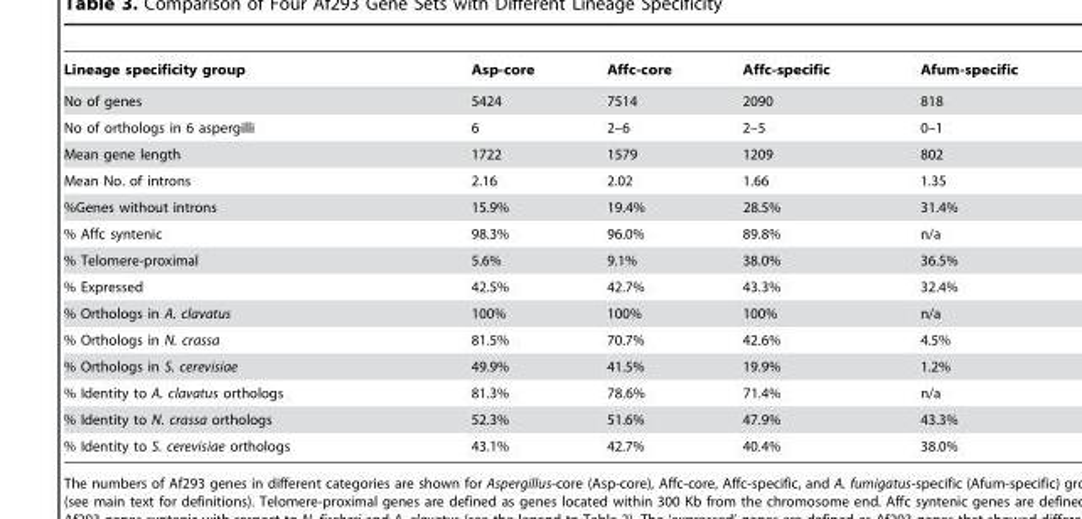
<table><thead><tr><td>Lineage specificity group</td><td>Asp-core</td><td>Affc-core</td><td>Affc-specific</td><td>Afum-specific</td></tr></thead><tbody><tr><td>No of genes</td><td>5424</td><td>7514</td><td>2090</td><td>818</td></tr><tr><td>No of orthologs in 6 aspergilli</td><td>6</td><td>2–6</td><td>2–5</td><td>0–1</td></tr><tr><td>Mean gene length</td><td>1722</td><td>1579</td><td>1209</td><td>802</td></tr><tr><td>Mean No. of introns</td><td>2.16</td><td>2.02</td><td>1.66</td><td>1.35</td></tr><tr><td>%Genes without introns</td><td>15.9%</td><td>19.4%</td><td>28.5%</td><td>31.4%</td></tr><tr><td>% Affc syntenic</td><td>98.3%</td><td>96.0%</td><td>89.8%</td><td>n/a</td></tr><tr><td>% Telomere-proximal</td><td>5.6%</td><td>9.1%</td><td>38.0%</td><td>36.5%</td></tr><tr><td>% Expressed</td><td>42.5%</td><td>42.7%</td><td>43.3%</td><td>32.4%</td></tr><tr><td>% Orthologs in A. clavatus</td><td>100%</td><td>100%</td><td>100%</td><td>n/a</td></tr><tr><td>% Orthologs in N. crassa</td><td>81.5%</td><td>70.7%</td><td>42.6%</td><td>4.5%</td></tr><tr><td>% Orthologs in S. cerevisiae</td><td>49.9%</td><td>41.5%</td><td>19.9%</td><td>1.2%</td></tr><tr><td>% Identity to A. clavatus orthologs</td><td>81.3%</td><td>78.6%</td><td>71.4%</td><td>n/a</td></tr><tr><td>% Identity to N. crassa orthologs</td><td>52.3%</td><td>51.6%</td><td>47.9%</td><td>43.3%</td></tr><tr><td>% Identity to S. cerevisiae orthologs</td><td>43.1%</td><td>42.7%</td><td>40.4%</td><td>38.0%</td></tr></tbody></table>